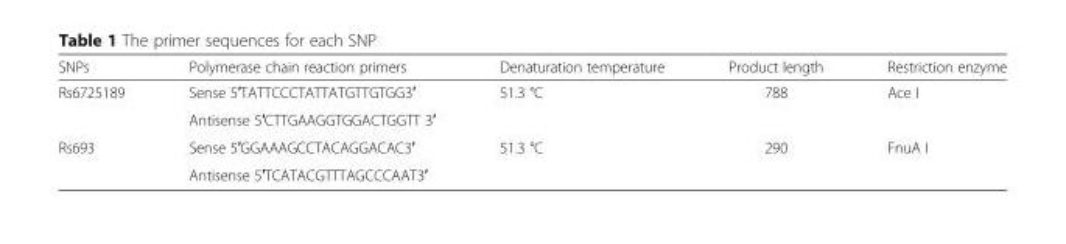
<table><thead><tr><td>SNPs</td><td>Polymerase chain reaction primers</td><td>Denaturation temperature</td><td>Product length</td><td>Restriction enzyme</td></tr></thead><tbody><tr><td rowspan="2">Rs6725189</td><td>Sense 5′TATTCCCTATTATGTTGTGG3′</td><td rowspan="2">51.3 °C</td><td rowspan="2">788</td><td rowspan="2">Ace I</td></tr><tr><td>Antisense 5′CTTGAAGGTGGACTGGTT 3′</td></tr><tr><td rowspan="2">Rs693</td><td>Sense 5′GGAAAGCCTACAGGACAC3′</td><td rowspan="2">51.3 °C</td><td rowspan="2">290</td><td rowspan="2">FnuA I</td></tr><tr><td>Antisense 5′TCATACGTTTAGCCCAAT3′</td></tr></tbody></table>